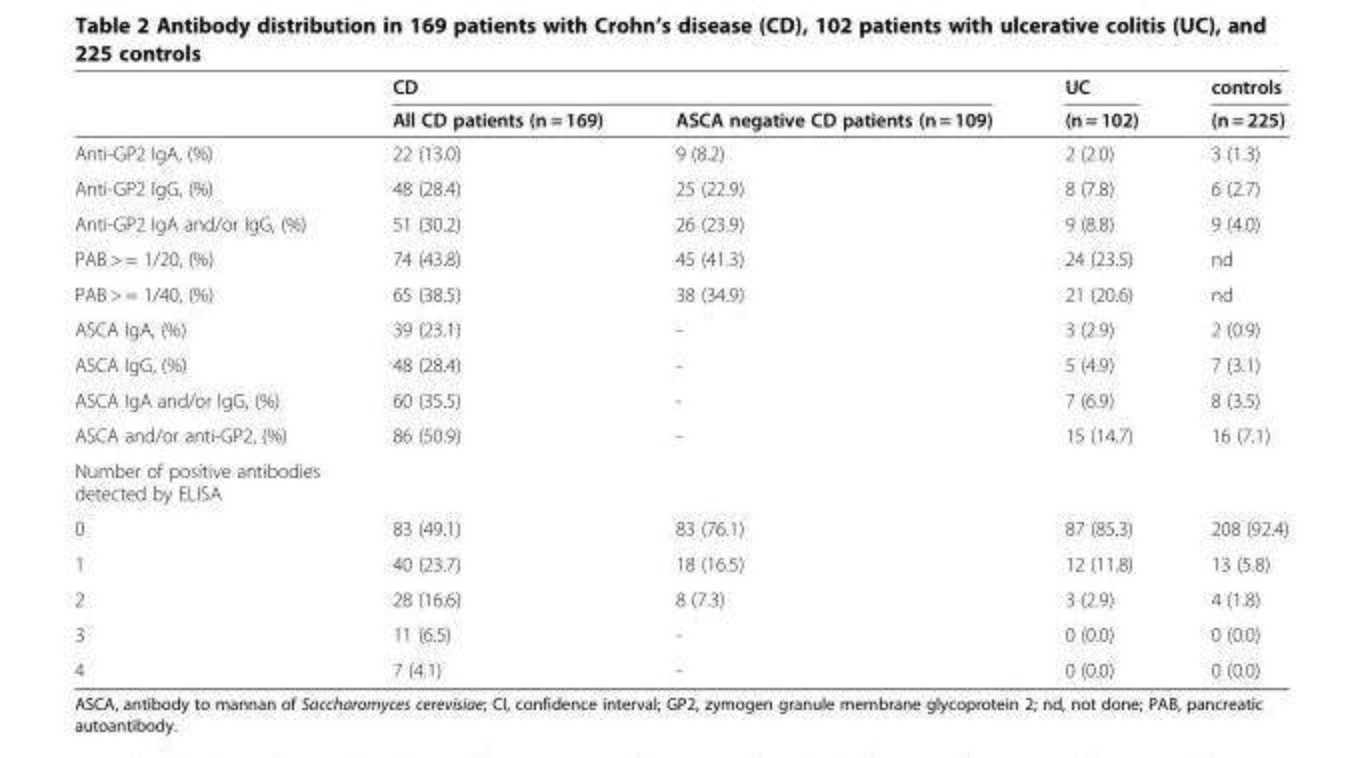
<table><thead><tr><td rowspan="2"></td><td colspan="2">CD</td><td rowspan="2">UC (n = 102)</td><td rowspan="2">controls (n = 225)</td></tr><tr><td>All CD patients (n = 169)</td><td>ASCA negative CD patients (n = 109)</td></tr></thead><tbody><tr><td>Anti-GP2 IgA, (%)</td><td>22 (13.0)</td><td>9 (8.2)</td><td>2 (2.0)</td><td>3 (1.3)</td></tr><tr><td>Anti-GP2 IgG, (%)</td><td>48 (28.4)</td><td>25 (22.9)</td><td>8 (7.8)</td><td>6 (2.7)</td></tr><tr><td>Anti-GP2 IgA and/or IgG, (%)</td><td>51 (30.2)</td><td>26 (23.9)</td><td>9 (8.8)</td><td>9 (4.0)</td></tr><tr><td>PAB &gt; = 1/20, (%)</td><td>74 (43.8)</td><td>45 (41.3)</td><td>24 (23.5)</td><td>nd</td></tr><tr><td>PAB &gt; = 1/40, (%)</td><td>65 (38.5)</td><td>38 (34.9)</td><td>21 (20.6)</td><td>nd</td></tr><tr><td>ASCA IgA, (%)</td><td>39 (23.1)</td><td>-</td><td>3 (2.9)</td><td>2 (0.9)</td></tr><tr><td>ASCA IgG, (%)</td><td>48 (28.4)</td><td>-</td><td>5 (4.9)</td><td>7 (3.1)</td></tr><tr><td>ASCA IgA and/or IgG, (%)</td><td>60 (35.5)</td><td>-</td><td>7 (6.9)</td><td>8 (3.5)</td></tr><tr><td>ASCA and/or anti-GP2, (%)</td><td>86 (50.9)</td><td>-</td><td>15 (14.7)</td><td>16 (7.1)</td></tr><tr><td colspan="5">Number of positive antibodies detected by ELISA</td></tr><tr><td>0</td><td>83 (49.1)</td><td>83 (76.1)</td><td>87 (85.3)</td><td>208 (92.4)</td></tr><tr><td>1</td><td>40 (23.7)</td><td>18 (16.5)</td><td>12 (11.8)</td><td>13 (5.8)</td></tr><tr><td>2</td><td>28 (16.6)</td><td>8 (7.3)</td><td>3 (2.9)</td><td>4 (1.8)</td></tr><tr><td>3</td><td>11 (6.5)</td><td>-</td><td>0 (0.0)</td><td>0 (0.0)</td></tr><tr><td>4</td><td>7 (4.1)</td><td>-</td><td>0 (0.0)</td><td>0 (0.0)</td></tr></tbody></table>